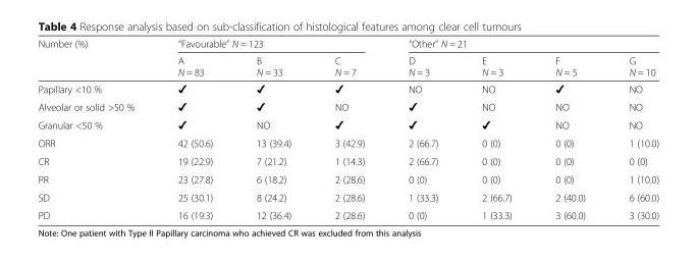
<table><thead><tr><td rowspan="2">Number (%)</td><td colspan="3">“Favourable” N = 123</td><td colspan="4">“Other” N = 21</td></tr><tr><td>A N = 83</td><td>B N = 33</td><td>C N = 7</td><td>D N = 3</td><td>E N = 3</td><td>F N = 5</td><td>G N = 10</td></tr></thead><tbody><tr><td>Papillary &lt;10 %</td><td>✔</td><td>✔</td><td>✔</td><td>NO</td><td>NO</td><td>✔</td><td>NO</td></tr><tr><td>Alveolar or solid &gt;50 %</td><td>✔</td><td>✔</td><td>NO</td><td>✔</td><td>NO</td><td>NO</td><td>NO</td></tr><tr><td>Granular &lt;50 %</td><td>✔</td><td>NO</td><td>✔</td><td>✔</td><td>✔</td><td>NO</td><td>NO</td></tr><tr><td>ORR</td><td>42 (50.6)</td><td>13 (39.4)</td><td>3 (42.9)</td><td>2 (66.7)</td><td>0 (0)</td><td>0 (0)</td><td>1 (10.0)</td></tr><tr><td>CR</td><td>19 (22.9)</td><td>7 (21.2)</td><td>1 (14.3)</td><td>2 (66.7)</td><td>0 (0)</td><td>0 (0)</td><td>0 (0)</td></tr><tr><td>PR</td><td>23 (27.8)</td><td>6 (18.2)</td><td>2 (28.6)</td><td>0 (0)</td><td>0 (0)</td><td>0 (0)</td><td>1 (10.0)</td></tr><tr><td>SD</td><td>25 (30.1)</td><td>8 (24.2)</td><td>2 (28.6)</td><td>1 (33.3)</td><td>2 (66.7)</td><td>2 (40.0)</td><td>6 (60.0)</td></tr><tr><td>PD</td><td>16 (19.3)</td><td>12 (36.4)</td><td>2 (28.6)</td><td>0 (0)</td><td>1 (33.3)</td><td>3 (60.0)</td><td>3 (30.0)</td></tr></tbody></table>